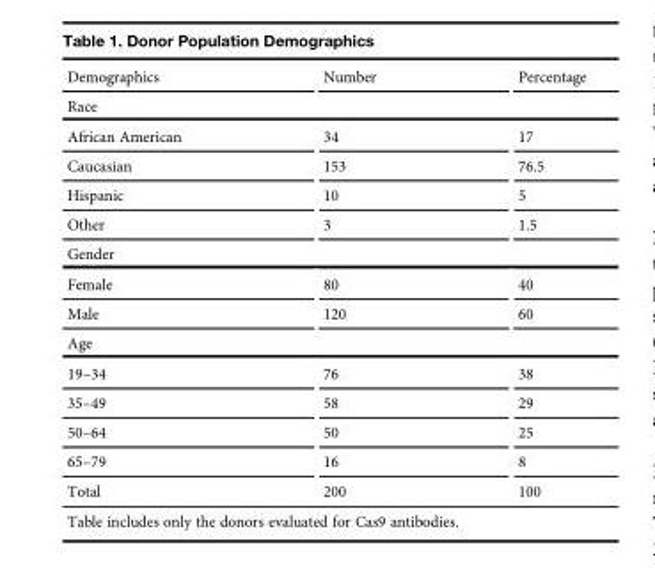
<table><thead><tr><td>Demographics</td><td>Number</td><td>Percentage</td></tr></thead><tbody><tr><td colspan="3">Race</td></tr><tr><td>African American</td><td>34</td><td>17</td></tr><tr><td>Caucasian</td><td>153</td><td>76.5</td></tr><tr><td>Hispanic</td><td>10</td><td>5</td></tr><tr><td>Other</td><td>3</td><td>1.5</td></tr><tr><td colspan="3">Gender</td></tr><tr><td>Female</td><td>80</td><td>40</td></tr><tr><td>Male</td><td>120</td><td>60</td></tr><tr><td colspan="3">Age</td></tr><tr><td>19–34</td><td>76</td><td>38</td></tr><tr><td>35–49</td><td>58</td><td>29</td></tr><tr><td>50–64</td><td>50</td><td>25</td></tr><tr><td>65–79</td><td>16</td><td>8</td></tr><tr><td>Total</td><td>200</td><td>100</td></tr></tbody></table>